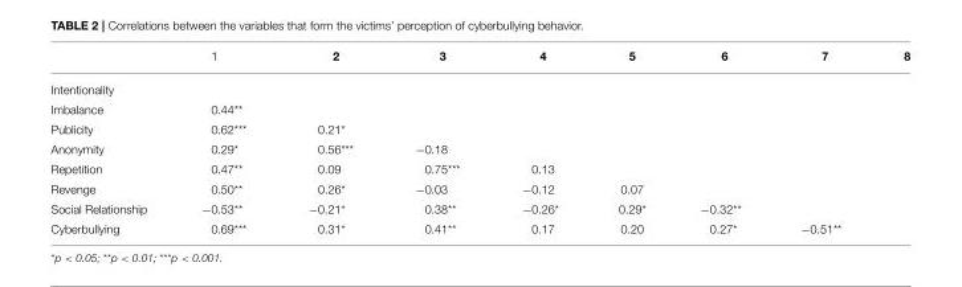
<table><thead><tr><td></td><td>1</td><td>2</td><td>3</td><td>4</td><td>5</td><td>6</td><td>7</td><td>8</td></tr></thead><tbody><tr><td colspan="9">Intentionality</td></tr><tr><td>Imbalance</td><td>0.44**</td><td></td><td></td><td></td><td></td><td></td><td></td><td></td></tr><tr><td>Publicity</td><td>0.62***</td><td>0.21*</td><td></td><td></td><td></td><td></td><td></td><td></td></tr><tr><td>Anonymity</td><td>0.29*</td><td>0.56***</td><td>−0.18</td><td></td><td></td><td></td><td></td><td></td></tr><tr><td>Repetition</td><td>0.47**</td><td>0.09</td><td>0.75***</td><td>0.13</td><td></td><td></td><td></td><td></td></tr><tr><td>Revenge</td><td>0.50**</td><td>0.26*</td><td>−0.03</td><td>−0.12</td><td>0.07</td><td></td><td></td><td></td></tr><tr><td>Social Relationship</td><td>−0.53**</td><td>−0.21*</td><td>0.38**</td><td>−0.26*</td><td>0.29*</td><td>−0.32**</td><td></td><td></td></tr><tr><td>Cyberbullying</td><td>0.69***</td><td>0.31*</td><td>0.41**</td><td>0.17</td><td>0.20</td><td>0.27*</td><td>−0.51**</td><td></td></tr></tbody></table>